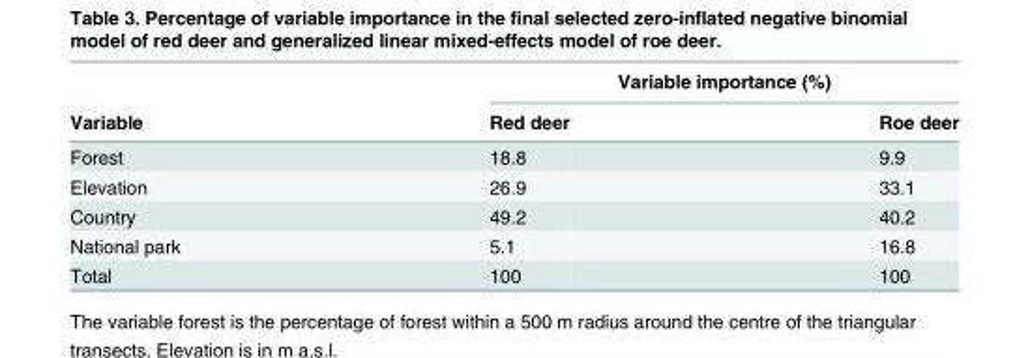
<table><thead><tr><td rowspan="2">Variable</td><td colspan="2">Variable importance (%)</td></tr><tr><td>Red deer</td><td>Roe deer</td></tr></thead><tbody><tr><td>Forest</td><td>18.8</td><td>9.9</td></tr><tr><td>Elevation</td><td>26.9</td><td>33.1</td></tr><tr><td>Country</td><td>49.2</td><td>40.2</td></tr><tr><td>National park</td><td>5.1</td><td>16.8</td></tr><tr><td>Total</td><td>100</td><td>100</td></tr></tbody></table>